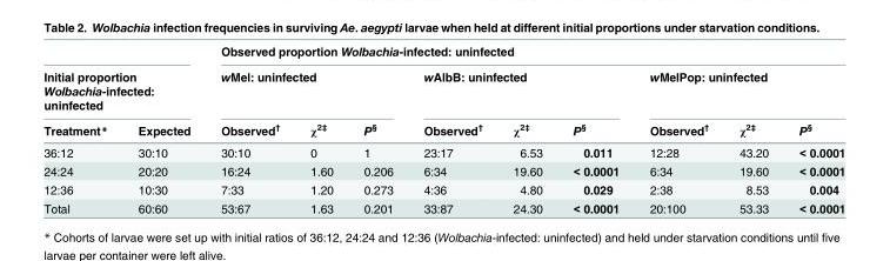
<table><thead><tr><td></td><td></td><td colspan="9">Observed proportion Wolbachia-infected: uninfected</td></tr><tr><td colspan="2">Initial proportion Wolbachia-infected: uninfected</td><td colspan="3">wMel: uninfected</td><td colspan="3">wAlbB: uninfected</td><td colspan="3">wMelPop: uninfected</td></tr><tr><td>Treatment*</td><td>Expected</td><td>Observed<sup>†</sup></td><td>χ<sup>2‡</sup></td><td>P<sup>§</sup></td><td>Observed<sup>†</sup></td><td>χ<sup>2‡</sup></td><td>P<sup>§</sup></td><td>Observed<sup>†</sup></td><td>χ<sup>2‡</sup></td><td>P<sup>§</sup></td></tr></thead><tbody><tr><td>36:12</td><td>30:10</td><td>30:10</td><td>0</td><td>1</td><td>23:17</td><td>6.53</td><td>0.011</td><td>12:28</td><td>43.20</td><td>&lt; 0.0001</td></tr><tr><td>24:24</td><td>20:20</td><td>16:24</td><td>1.60</td><td>0.206</td><td>6:34</td><td>19.60</td><td>&lt; 0.0001</td><td>6:34</td><td>19.60</td><td>&lt; 0.0001</td></tr><tr><td>12:36</td><td>10:30</td><td>7:33</td><td>1.20</td><td>0.273</td><td>4:36</td><td>4.80</td><td>0.029</td><td>2:38</td><td>8.53</td><td>0.004</td></tr><tr><td>Total</td><td>60:60</td><td>53:67</td><td>1.63</td><td>0.201</td><td>33:87</td><td>24.30</td><td>&lt; 0.0001</td><td>20:100</td><td>53.33</td><td>&lt; 0.0001</td></tr></tbody></table>